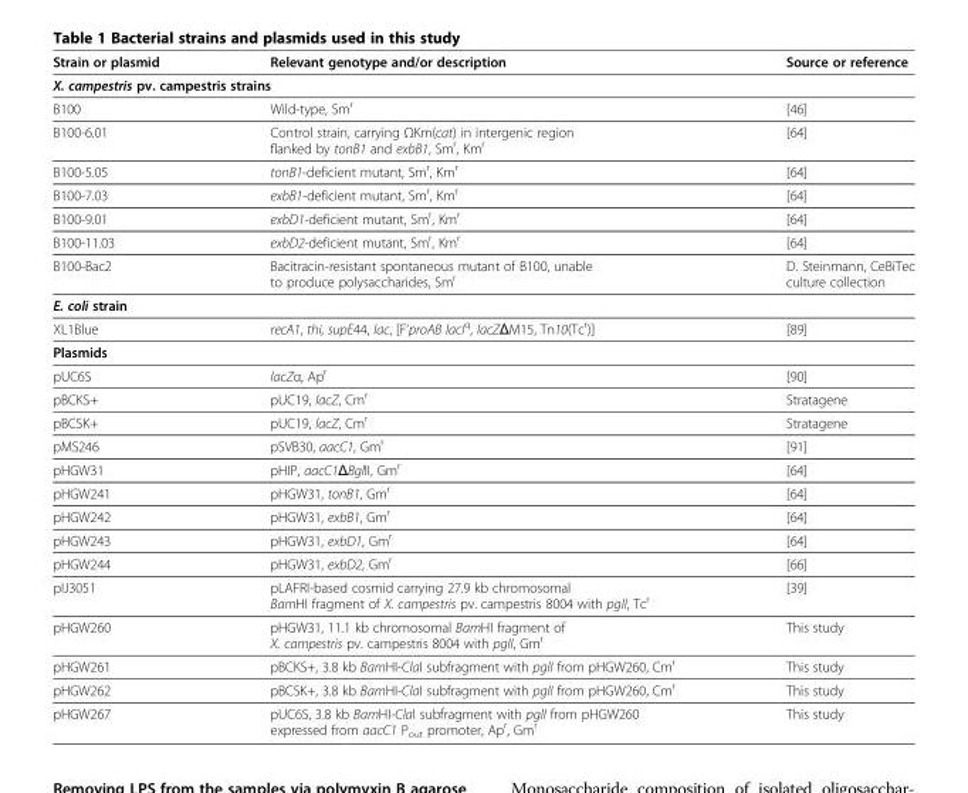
<table><thead><tr><td>Strain or plasmid</td><td>Relevant genotype and/or description</td><td>Source or reference</td></tr><tr><td colspan="3">X. campestris pv. campestris strains</td></tr></thead><tbody><tr><td>B100</td><td>Wild-type, Sm<sup>r</sup></td><td>[46]</td></tr><tr><td>B100-6.01</td><td>Control strain, carrying ΩKm(cat) in intergenic region flanked by tonB1 and exbB1, Sm<sup>r</sup>, Km<sup>r</sup></td><td>[64]</td></tr><tr><td>B100-5.05</td><td>tonB1-deficient mutant, Sm<sup>r</sup>, Km<sup>r</sup></td><td>[64]</td></tr><tr><td>B100-7.03</td><td>exbB1-deficient mutant, Sm<sup>r</sup>, Km<sup>r</sup></td><td>[64]</td></tr><tr><td>B100-9.01</td><td>exbD1-deficient mutant, Sm<sup>r</sup>, Km<sup>r</sup></td><td>[64]</td></tr><tr><td>B100-11.03</td><td>exbD2-deficient mutant, Sm<sup>r</sup>, Km<sup>r</sup></td><td>[64]</td></tr><tr><td>B100-Bac2</td><td>Bacitracin-resistant spontaneous mutant of B100, unable to produce polysaccharides, Sm<sup>r</sup></td><td>D. Steinmann, CeBiTec culture collection</td></tr><tr><td colspan="3">E. coli strain</td></tr><tr><td>XL1Blue</td><td>recA1, thi, supE44, lac, [F’proAB lacI<sup>q</sup>, lacZΔM15, Tn10(Tc<sup>r</sup>)]</td><td>[89]</td></tr><tr><td colspan="3">Plasmids</td></tr><tr><td>pUC6S</td><td>lacZα, Ap<sup>r</sup></td><td>[90]</td></tr><tr><td>pBCKS+</td><td>pUC19, lacZ, Cm<sup>r</sup></td><td>Stratagene</td></tr><tr><td>pBCSK+</td><td>pUC19, lacZ, Cm<sup>r</sup></td><td>Stratagene</td></tr><tr><td>pMS246</td><td>pSVB30, aacC1, Gm<sup>r</sup></td><td>[91]</td></tr><tr><td>pHGW31</td><td>pHIP, aacC1ΔBglII, Gm<sup>r</sup></td><td>[64]</td></tr><tr><td>pHGW241</td><td>pHGW31, tonB1, Gm<sup>r</sup></td><td>[64]</td></tr><tr><td>pHGW242</td><td>pHGW31, exbB1, Gm<sup>r</sup></td><td>[64]</td></tr><tr><td>pHGW243</td><td>pHGW31, exbD1, Gm<sup>r</sup></td><td>[64]</td></tr><tr><td>pHGW244</td><td>pHGW31, exbD2, Gm<sup>r</sup></td><td>[66]</td></tr><tr><td>pIJ3051</td><td>pLAFRI-based cosmid carrying 27.9 kb chromosomal BamHI fragment of X. campestris pv. campestris 8004 with pglI, Tc<sup>r</sup></td><td>[39]</td></tr><tr><td>pHGW260</td><td>pHGW31, 11.1 kb chromosomal BamHI fragment of X. campestris pv. campestris 8004 with pglI, Gm<sup>r</sup></td><td>This study</td></tr><tr><td>pHGW261</td><td>pBCKS+, 3.8 kb BamHI-ClaI subfragment with pglI from pHGW260, Cm<sup>r</sup></td><td>This study</td></tr><tr><td>pHGW262</td><td>pBCSK+, 3.8 kb BamHI-ClaI subfragment with pglI from pHGW260, Cm<sup>r</sup></td><td>This study</td></tr><tr><td>pHGW267</td><td>pUC6S, 3.8 kb BamHI-ClaI subfragment with pglI from pHGW260 expressed from aacC1 P<sub>out</sub> promoter, Ap<sup>r</sup>, Gm<sup>r</sup></td><td>This study</td></tr></tbody></table>